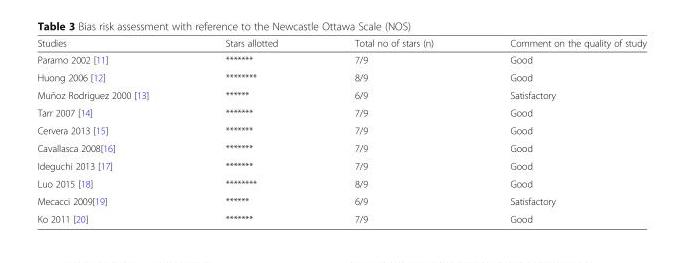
<table><thead><tr><td>Studies</td><td>Stars allotted</td><td>Total no of stars (n)</td><td>Comment on the quality of study</td></tr></thead><tbody><tr><td>Paramo 2002 [11]</td><td>*******</td><td>7/9</td><td>Good</td></tr><tr><td>Huong 2006 [12]</td><td>********</td><td>8/9</td><td>Good</td></tr><tr><td>Muñoz Rodriguez 2000 [13]</td><td>******</td><td>6/9</td><td>Satisfactory</td></tr><tr><td>Tarr 2007 [14]</td><td>*******</td><td>7/9</td><td>Good</td></tr><tr><td>Cervera 2013 [15]</td><td>*******</td><td>7/9</td><td>Good</td></tr><tr><td>Cavallasca 2008[16]</td><td>*******</td><td>7/9</td><td>Good</td></tr><tr><td>Ideguchi 2013 [17]</td><td>*******</td><td>7/9</td><td>Good</td></tr><tr><td>Luo 2015 [18]</td><td>********</td><td>8/9</td><td>Good</td></tr><tr><td>Mecacci 2009[19]</td><td>******</td><td>6/9</td><td>Satisfactory</td></tr><tr><td>Ko 2011 [20]</td><td>*******</td><td>7/9</td><td>Good</td></tr></tbody></table>